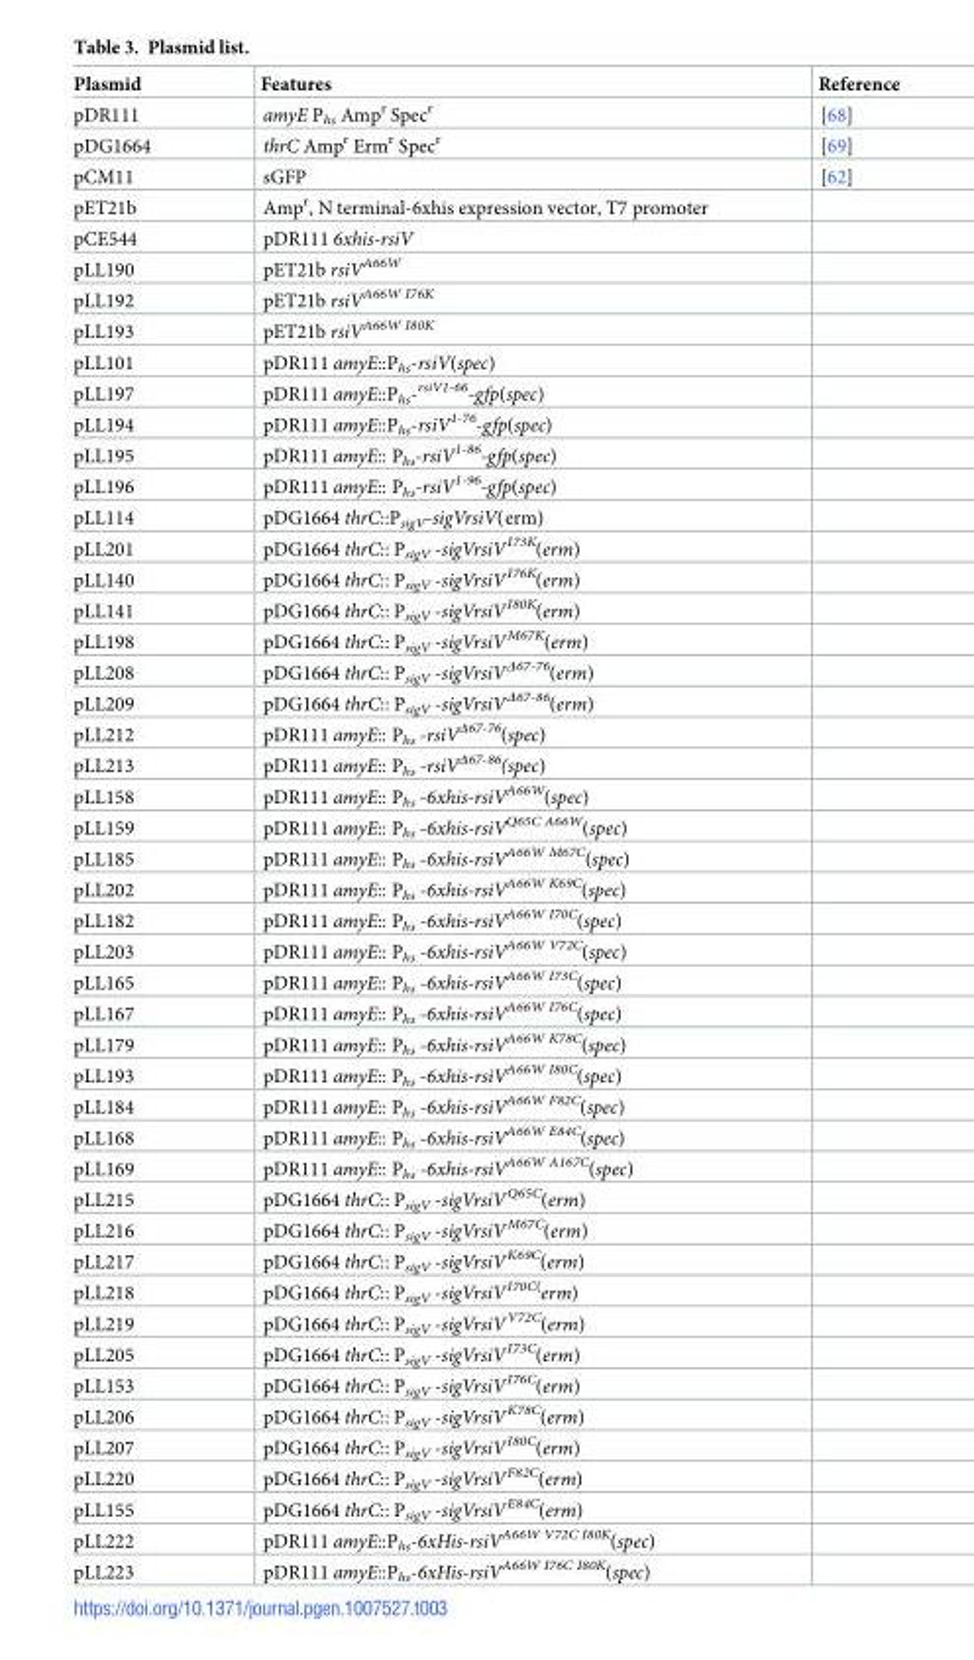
<table><thead><tr><td>Plasmid</td><td>Features</td><td>Reference</td></tr></thead><tbody><tr><td>pDR111</td><td>amyE P<sub>hs</sub> Amp<sup>r</sup> Spec<sup>r</sup></td><td>[68]</td></tr><tr><td>pDG1664</td><td>thrC Amp<sup>r</sup> Erm<sup>r</sup> Spec<sup>r</sup></td><td>[69]</td></tr><tr><td>pCM11</td><td>sGFP</td><td>[62]</td></tr><tr><td>pET21b</td><td>Amp<sup>r</sup>, N terminal-6xhis expression vector, T7 promoter</td><td></td></tr><tr><td>pCE544</td><td>pDR111 6xhis-rsiV</td><td></td></tr><tr><td>pLL190</td><td>pET21b rsiV<sup>A66W</sup></td><td></td></tr><tr><td>pLL192</td><td>pET21b rsiV<sup>A66W I76K</sup></td><td></td></tr><tr><td>pLL193</td><td>pET21b rsiV<sup>A66W I80K</sup></td><td></td></tr><tr><td>pLL101</td><td>pDR111 amyE::P<sub>hs</sub>-rsiV(spec)</td><td></td></tr><tr><td>pLL197</td><td>pDR111 amyE::P<sub>hs</sub>-<sup>rsiV1-66</sup>-gfp(spec)</td><td></td></tr><tr><td>pLL194</td><td>pDR111 amyE::P<sub>hs</sub>-rsiV<sup>1-76</sup>-gfp(spec)</td><td></td></tr><tr><td>pLL195</td><td>pDR111 amyE:: P<sub>hs</sub>-rsiV<sup>1-86</sup>-gfp(spec)</td><td></td></tr><tr><td>pLL196</td><td>pDR111 amyE:: P<sub>hs</sub>-rsiV<sup>1-96</sup>-gfp(spec)</td><td></td></tr><tr><td>pLL114</td><td>pDG1664 thrC::P<sub>sigV</sub>-sigVrsiV(erm)</td><td></td></tr><tr><td>pLL201</td><td>pDG1664 thrC:: P<sub>sigV</sub> -sigVrsiV<sup>I73K</sup>(erm)</td><td></td></tr><tr><td>pLL140</td><td>pDG1664 thrC:: P<sub>sigV</sub> -sigVrsiV<sup>I76K</sup>(erm)</td><td></td></tr><tr><td>pLL141</td><td>pDG1664 thrC:: P<sub>sigV</sub> -sigVrsiV<sup>I80K</sup>(erm)</td><td></td></tr><tr><td>pLL198</td><td>pDG1664 thrC:: P<sub>sigV</sub> -sigVrsiV<sup>M67K</sup>(erm)</td><td></td></tr><tr><td>pLL208</td><td>pDG1664 thrC:: P<sub>sigV</sub> -sigVrsiV<sup>Δ67-76</sup>(erm)</td><td></td></tr><tr><td>pLL209</td><td>pDG1664 thrC:: P<sub>sigV</sub> -sigVrsiV<sup>Δ67-86</sup>(erm)</td><td></td></tr><tr><td>pLL212</td><td>pDR111 amyE:: P<sub>hs</sub> -rsiV<sup>Δ67-76</sup>(spec)</td><td></td></tr><tr><td>pLL213</td><td>pDR111 amyE:: P<sub>hs</sub> -rsiV<sup>Δ67-86</sup>(spec)</td><td></td></tr><tr><td>pLL158</td><td>pDR111 amyE:: P<sub>hs</sub> -6xhis-rsiV<sup>A66W</sup>(spec)</td><td></td></tr><tr><td>pLL159</td><td>pDR111 amyE:: P<sub>hs</sub> -6xhis-rsiV<sup>Q65C A66W</sup>(spec)</td><td></td></tr><tr><td>pLL185</td><td>pDR111 amyE:: P<sub>hs</sub> -6xhis-rsiV<sup>A66W M67C</sup>(spec)</td><td></td></tr><tr><td>pLL202</td><td>pDR111 amyE:: P<sub>hs</sub> -6xhis-rsiV<sup>A66W K69C</sup>(spec)</td><td></td></tr><tr><td>pLL182</td><td>pDR111 amyE:: P<sub>hs</sub> -6xhis-rsiV<sup>A66W I70C</sup>(spec)</td><td></td></tr><tr><td>pLL203</td><td>pDR111 amyE:: P<sub>hs</sub> -6xhis-rsiV<sup>A66W V72C</sup>(spec)</td><td></td></tr><tr><td>pLL165</td><td>pDR111 amyE:: P<sub>hs</sub> -6xhis-rsiV<sup>A66W I73C</sup>(spec)</td><td></td></tr><tr><td>pLL167</td><td>pDR111 amyE:: P<sub>hs</sub> -6xhis-rsiV<sup>A66W I76C</sup>(spec)</td><td></td></tr><tr><td>pLL179</td><td>pDR111 amyE:: P<sub>hs</sub> -6xhis-rsiV<sup>A66W K78C</sup>(spec)</td><td></td></tr><tr><td>pLL193</td><td>pDR111 amyE:: P<sub>hs</sub> -6xhis-rsiV<sup>A66W I80C</sup>(spec)</td><td></td></tr><tr><td>pLL184</td><td>pDR111 amyE:: P<sub>hs</sub> -6xhis-rsiV<sup>A66W F82C</sup>(spec)</td><td></td></tr><tr><td>pLL168</td><td>pDR111 amyE:: P<sub>hs</sub> -6xhis-rsiV<sup>A66W E84C</sup>(spec)</td><td></td></tr><tr><td>pLL169</td><td>pDR111 amyE:: P<sub>hs</sub> -6xhis-rsiV<sup>A66W A167C</sup>(spec)</td><td></td></tr><tr><td>pLL215</td><td>pDG1664 thrC:: P<sub>sigV</sub> -sigVrsiV<sup>Q65C</sup>(erm)</td><td></td></tr><tr><td>pLL216</td><td>pDG1664 thrC:: P<sub>sigV</sub> -sigVrsiV<sup>M67C</sup>(erm)</td><td></td></tr><tr><td>pLL217</td><td>pDG1664 thrC:: P<sub>sigV</sub> -sigVrsiV<sup>K69C</sup>(erm)</td><td></td></tr><tr><td>pLL218</td><td>pDG1664 thrC:: P<sub>sigV</sub> -sigVrsiV<sup>I70C(</sup>erm)</td><td></td></tr><tr><td>pLL219</td><td>pDG1664 thrC:: P<sub>sigV</sub> -sigVrsiV<sup>V72C</sup>(erm)</td><td></td></tr><tr><td>pLL205</td><td>pDG1664 thrC:: P<sub>sigV</sub> -sigVrsiV<sup>I73C</sup>(erm)</td><td></td></tr><tr><td>pLL153</td><td>pDG1664 thrC:: P<sub>sigV</sub> -sigVrsiV<sup>I76C</sup>(erm)</td><td></td></tr><tr><td>pLL206</td><td>pDG1664 thrC:: P<sub>sigV</sub> -sigVrsiV<sup>K78C</sup>(erm)</td><td></td></tr><tr><td>pLL207</td><td>pDG1664 thrC:: P<sub>sigV</sub> -sigVrsiV<sup>I80C</sup>(erm)</td><td></td></tr><tr><td>pLL220</td><td>pDG1664 thrC:: P<sub>sigV</sub> -sigVrsiV<sup>F82C</sup>(erm)</td><td></td></tr><tr><td>pLL155</td><td>pDG1664 thrC:: P<sub>sigV</sub> -sigVrsiV<sup>E84C</sup>(erm)</td><td></td></tr><tr><td>pLL222</td><td>pDR111 amyE::P<sub>hs</sub>-6xHis-rsiV<sup>A66W V72C I80K</sup>(spec)</td><td></td></tr><tr><td>pLL223</td><td>pDR111 amyE::P<sub>hs</sub>-6xHis-rsiV<sup>A66W I76C I80K</sup>(spec)</td><td></td></tr></tbody></table>